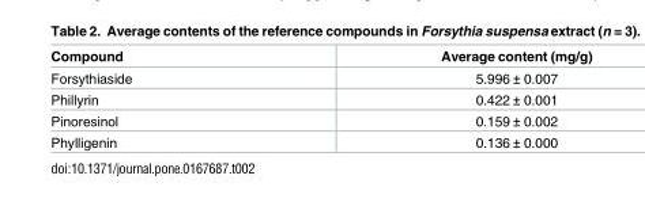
<table><thead><tr><td>Compound</td><td>Average content (mg/g)</td></tr></thead><tbody><tr><td>Forsythiaside</td><td>5.996 ± 0.007</td></tr><tr><td>Phillyrin</td><td>0.422 ± 0.001</td></tr><tr><td>Pinoresinol</td><td>0.159 ± 0.002</td></tr><tr><td>Phylligenin</td><td>0.136 ± 0.000</td></tr></tbody></table>